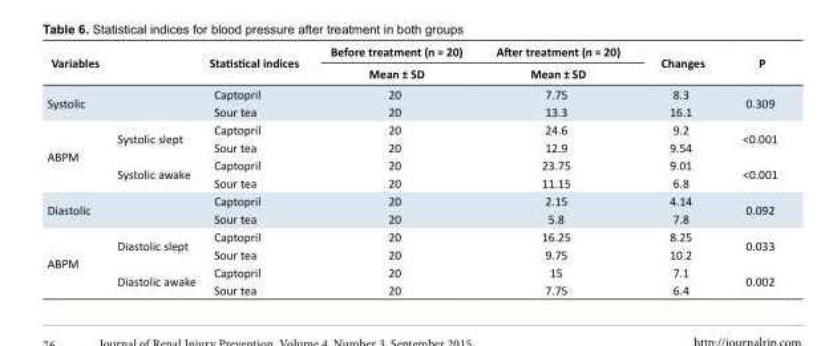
<table><tbody><tr><td rowspan="2">Variables</td><td rowspan="2"></td><td rowspan="2">Statistical indices</td><td>Before treatment (n = 20)</td><td>After treatment (n = 20)</td><td rowspan="2">Changes</td><td rowspan="2">P</td></tr><tr><td>Mean ± SD</td><td>Mean ± SD</td></tr><tr><td rowspan="2">Systolic</td><td rowspan="2"></td><td>Captopril</td><td>20</td><td>7.75</td><td>8.3</td><td rowspan="2">0.309</td></tr><tr><td>Sour tea</td><td>20</td><td>13.3</td><td>16.1</td></tr><tr><td rowspan="4">ABPM</td><td rowspan="2">Systolic slept</td><td>Captopril</td><td>20</td><td>24.6</td><td>9.2</td><td rowspan="2">&lt;0.001</td></tr><tr><td>Sour tea</td><td>20</td><td>12.9</td><td>9.54</td></tr><tr><td rowspan="2">Systolic awake</td><td>Captopril</td><td>20</td><td>23.75</td><td>9.01</td><td rowspan="2">&lt;0.001</td></tr><tr><td>Sour tea</td><td>20</td><td>11.15</td><td>6.8</td></tr><tr><td rowspan="2">Diastolic</td><td rowspan="2"></td><td>Captopril</td><td>20</td><td>2.15</td><td>4.14</td><td rowspan="2">0.092</td></tr><tr><td>Sour tea</td><td>20</td><td>5.8</td><td>7.8</td></tr><tr><td rowspan="4">ABPM</td><td rowspan="2">Diastolic slept</td><td>Captopril</td><td>20</td><td>16.25</td><td>8.25</td><td rowspan="2">0.033</td></tr><tr><td>Sour tea</td><td>20</td><td>9.75</td><td>10.2</td></tr><tr><td rowspan="2">Diastolic awake</td><td>Captopril</td><td>20</td><td>15</td><td>7.1</td><td rowspan="2">0.002</td></tr><tr><td>Sour tea</td><td>20</td><td>7.75</td><td>6.4</td></tr></tbody></table>